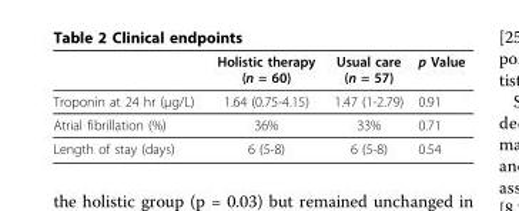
<table><thead><tr><td></td><td>Holistic therapy (n = 60)</td><td>Usual care (n = 57)</td><td>p Value</td></tr></thead><tbody><tr><td>Troponin at 24 hr (μg/L)</td><td>1.64 (0.75-4.15)</td><td>1.47 (1-2.79)</td><td>0.91</td></tr><tr><td>Atrial fibrillation (%)</td><td>36%</td><td>33%</td><td>0.71</td></tr><tr><td>Length of stay (days)</td><td>6 (5-8)</td><td>6 (5-8)</td><td>0.54</td></tr></tbody></table>